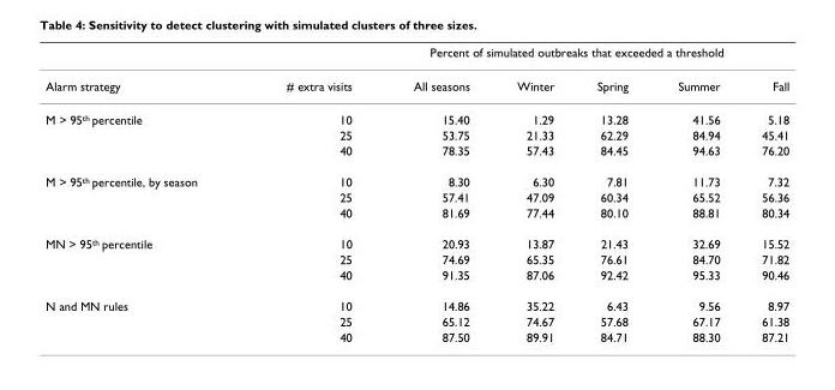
<table><thead><tr><td rowspan="2">Alarm strategy</td><td rowspan="2"># extra visits</td><td colspan="5">Percent of simulated outbreaks that exceeded a threshold</td></tr><tr><td>All seasons</td><td>Winter</td><td>Spring</td><td>Summer</td><td>Fall</td></tr></thead><tbody><tr><td rowspan="3">M &gt; 95<sup>th</sup> percentile</td><td>10</td><td>15.40</td><td>1.29</td><td>13.28</td><td>41.56</td><td>5.18</td></tr><tr><td>25</td><td>53.75</td><td>21.33</td><td>62.29</td><td>84.94</td><td>45.41</td></tr><tr><td>40</td><td>78.35</td><td>57.43</td><td>84.45</td><td>94.63</td><td>76.20</td></tr><tr><td rowspan="3">M &gt; 95<sup>th</sup> percentile, by season</td><td>10</td><td>8.30</td><td>6.30</td><td>7.81</td><td>11.73</td><td>7.32</td></tr><tr><td>25</td><td>57.41</td><td>47.09</td><td>60.34</td><td>65.52</td><td>56.36</td></tr><tr><td>40</td><td>81.69</td><td>77.44</td><td>80.10</td><td>88.81</td><td>80.34</td></tr><tr><td rowspan="3">MN &gt; 95<sup>th</sup> percentile</td><td>10</td><td>20.93</td><td>13.87</td><td>21.43</td><td>32.69</td><td>15.52</td></tr><tr><td>25</td><td>74.69</td><td>65.35</td><td>76.61</td><td>84.70</td><td>71.82</td></tr><tr><td>40</td><td>91.35</td><td>87.06</td><td>92.42</td><td>95.33</td><td>90.46</td></tr><tr><td rowspan="3">N and MN rules</td><td>10</td><td>14.86</td><td>35.22</td><td>6.43</td><td>9.56</td><td>8.97</td></tr><tr><td>25</td><td>65.12</td><td>74.67</td><td>57.68</td><td>67.17</td><td>61.38</td></tr><tr><td>40</td><td>87.50</td><td>89.91</td><td>84.71</td><td>88.30</td><td>87.21</td></tr></tbody></table>